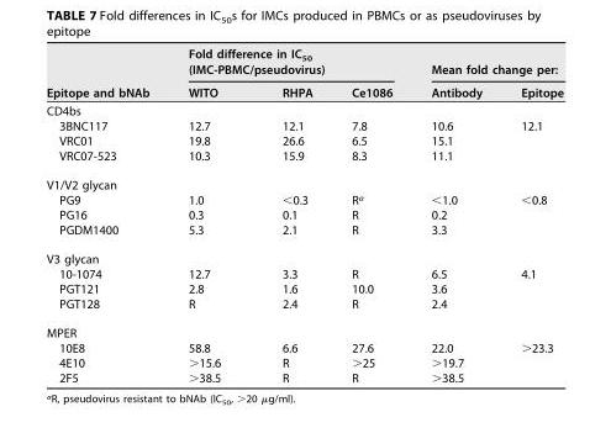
<table><thead><tr><td rowspan="2">Epitope and bNAb</td><td colspan="3">Fold difference in IC<sub>50</sub> (IMC-PBMC/pseudovirus)</td><td colspan="2">Mean fold change per:</td></tr><tr><td>WITO</td><td>RHPA</td><td>Ce1086</td><td>Antibody</td><td>Epitope</td></tr></thead><tbody><tr><td colspan="6">CD4bs</td></tr><tr><td>3BNC117</td><td>12.7</td><td>12.1</td><td>7.8</td><td>10.6</td><td>12.1</td></tr><tr><td>VRC01</td><td>19.8</td><td>26.6</td><td>6.5</td><td>15.1</td><td></td></tr><tr><td>VRC07-523</td><td>10.3</td><td>15.9</td><td>8.3</td><td>11.1</td><td></td></tr><tr><td colspan="6">V1/V2 glycan</td></tr><tr><td>PG9</td><td>1.0</td><td>&lt;0.3</td><td>R<sup>a</sup></td><td>&lt;1.0</td><td>&lt;0.8</td></tr><tr><td>PG16</td><td>0.3</td><td>0.1</td><td>R</td><td>0.2</td><td></td></tr><tr><td>PGDM1400</td><td>5.3</td><td>2.1</td><td>R</td><td>3.3</td><td></td></tr><tr><td colspan="6">V3 glycan</td></tr><tr><td>10-1074</td><td>12.7</td><td>3.3</td><td>R</td><td>6.5</td><td>4.1</td></tr><tr><td>PGT121</td><td>2.8</td><td>1.6</td><td>10.0</td><td>3.6</td><td></td></tr><tr><td>PGT128</td><td>R</td><td>2.4</td><td>R</td><td>2.4</td><td></td></tr><tr><td colspan="6">MPER</td></tr><tr><td>10E8</td><td>58.8</td><td>6.6</td><td>27.6</td><td>22.0</td><td>&gt;23.3</td></tr><tr><td>4E10</td><td>&gt;15.6</td><td>R</td><td>&gt;25</td><td>&gt;19.7</td><td></td></tr><tr><td>2F5</td><td>&gt;38.5</td><td>R</td><td>R</td><td>&gt;38.5</td><td></td></tr></tbody></table>